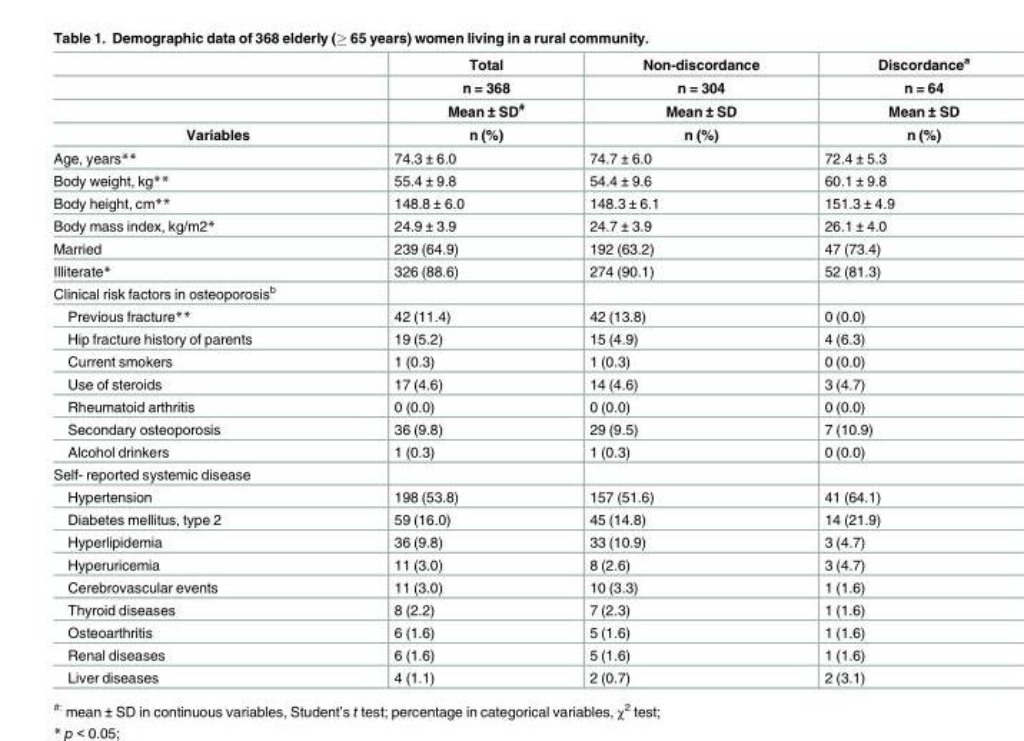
<table><thead><tr><td rowspan="4">Variables</td><td rowspan="4">Total n = 368 Mean ± SD<sup>#</sup> n (%)</td><td rowspan="4">Non-discordance n = 304 Mean ± SD n (%)</td><td rowspan="4">Discordance<sup>a</sup> n = 64 Mean ± SD n (%)</td></tr><tr></tr><tr></tr><tr></tr></thead><tbody><tr><td>Age, years**</td><td>74.3 ± 6.0</td><td>74.7 ± 6.0</td><td>72.4 ± 5.3</td></tr><tr><td>Body weight, kg**</td><td>55.4 ± 9.8</td><td>54.4 ± 9.6</td><td>60.1 ± 9.8</td></tr><tr><td>Body height, cm**</td><td>148.8 ± 6.0</td><td>148.3 ± 6.1</td><td>151.3 ± 4.9</td></tr><tr><td>Body mass index, kg/m2*</td><td>24.9 ± 3.9</td><td>24.7 ± 3.9</td><td>26.1 ± 4.0</td></tr><tr><td>Married</td><td>239 (64.9)</td><td>192 (63.2)</td><td>47 (73.4)</td></tr><tr><td>Illiterate*</td><td>326 (88.6)</td><td>274 (90.1)</td><td>52 (81.3)</td></tr><tr><td colspan="4">Clinical risk factors in osteoporosis<sup>b</sup></td></tr><tr><td>Previous fracture**</td><td>42 (11.4)</td><td>42 (13.8)</td><td>0 (0.0)</td></tr><tr><td>Hip fracture history of parents</td><td>19 (5.2)</td><td>15 (4.9)</td><td>4 (6.3)</td></tr><tr><td>Current smokers</td><td>1 (0.3)</td><td>1 (0.3)</td><td>0 (0.0)</td></tr><tr><td>Use of steroids</td><td>17 (4.6)</td><td>14 (4.6)</td><td>3 (4.7)</td></tr><tr><td>Rheumatoid arthritis</td><td>0 (0.0)</td><td>0 (0.0)</td><td>0 (0.0)</td></tr><tr><td>Secondary osteoporosis</td><td>36 (9.8)</td><td>29 (9.5)</td><td>7 (10.9)</td></tr><tr><td>Alcohol drinkers</td><td>1 (0.3)</td><td>1 (0.3)</td><td>0 (0.0)</td></tr><tr><td colspan="4">Self- reported systemic disease</td></tr><tr><td>Hypertension</td><td>198 (53.8)</td><td>157 (51.6)</td><td>41 (64.1)</td></tr><tr><td>Diabetes mellitus, type 2</td><td>59 (16.0)</td><td>45 (14.8)</td><td>14 (21.9)</td></tr><tr><td>Hyperlipidemia</td><td>36 (9.8)</td><td>33 (10.9)</td><td>3 (4.7)</td></tr><tr><td>Hyperuricemia</td><td>11 (3.0)</td><td>8 (2.6)</td><td>3 (4.7)</td></tr><tr><td>Cerebrovascular events</td><td>11 (3.0)</td><td>10 (3.3)</td><td>1 (1.6)</td></tr><tr><td>Thyroid diseases</td><td>8 (2.2)</td><td>7 (2.3)</td><td>1 (1.6)</td></tr><tr><td>Osteoarthritis</td><td>6 (1.6)</td><td>5 (1.6)</td><td>1 (1.6)</td></tr><tr><td>Renal diseases</td><td>6 (1.6)</td><td>5 (1.6)</td><td>1 (1.6)</td></tr><tr><td>Liver diseases</td><td>4 (1.1)</td><td>2 (0.7)</td><td>2 (3.1)</td></tr></tbody></table>